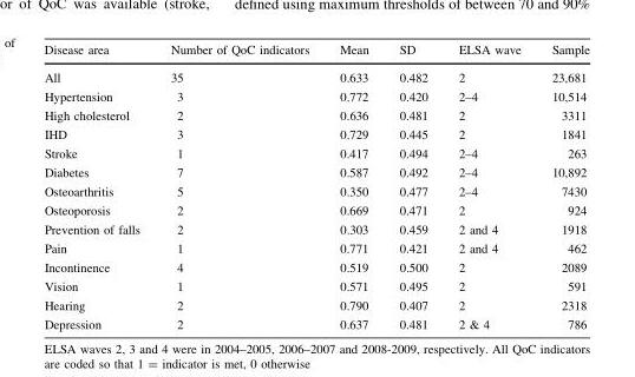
<table><thead><tr><td>Disease area</td><td>Number of QoC indicators</td><td>Mean</td><td>SD</td><td>ELSA wave</td><td>Sample</td></tr></thead><tbody><tr><td>All</td><td>35</td><td>0.633</td><td>0.482</td><td>2</td><td>23,681</td></tr><tr><td>Hypertension</td><td>3</td><td>0.772</td><td>0.420</td><td>2–4</td><td>10,514</td></tr><tr><td>High cholesterol</td><td>2</td><td>0.636</td><td>0.481</td><td>2</td><td>3311</td></tr><tr><td>IHD</td><td>3</td><td>0.729</td><td>0.445</td><td>2</td><td>1841</td></tr><tr><td>Stroke</td><td>1</td><td>0.417</td><td>0.494</td><td>2–4</td><td>263</td></tr><tr><td>Diabetes</td><td>7</td><td>0.587</td><td>0.492</td><td>2–4</td><td>10,892</td></tr><tr><td>Osteoarthritis</td><td>5</td><td>0.350</td><td>0.477</td><td>2–4</td><td>7430</td></tr><tr><td>Osteoporosis</td><td>2</td><td>0.669</td><td>0.471</td><td>2</td><td>924</td></tr><tr><td>Prevention of falls</td><td>2</td><td>0.303</td><td>0.459</td><td>2 and 4</td><td>1918</td></tr><tr><td>Pain</td><td>1</td><td>0.771</td><td>0.421</td><td>2 and 4</td><td>462</td></tr><tr><td>Incontinence</td><td>4</td><td>0.519</td><td>0.500</td><td>2</td><td>2089</td></tr><tr><td>Vision</td><td>1</td><td>0.571</td><td>0.495</td><td>2</td><td>591</td></tr><tr><td>Hearing</td><td>2</td><td>0.790</td><td>0.407</td><td>2</td><td>2318</td></tr><tr><td>Depression</td><td>2</td><td>0.637</td><td>0.481</td><td>2 &amp; 4</td><td>786</td></tr></tbody></table>